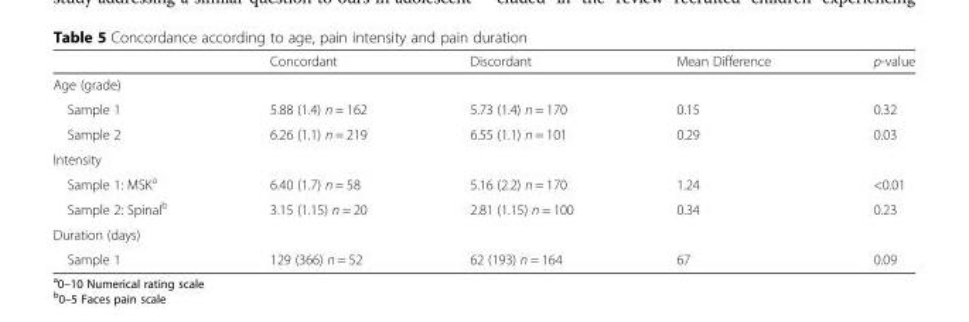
<table><thead><tr><td></td><td>Concordant</td><td>Discordant</td><td>Mean Difference</td><td>p-value</td></tr></thead><tbody><tr><td colspan="5">Age (grade)</td></tr><tr><td>Sample 1</td><td>5.88 (1.4) n = 162</td><td>5.73 (1.4) n = 170</td><td>0.15</td><td>0.32</td></tr><tr><td>Sample 2</td><td>6.26 (1.1) n = 219</td><td>6.55 (1.1) n = 101</td><td>0.29</td><td>0.03</td></tr><tr><td colspan="5">Intensity</td></tr><tr><td>Sample 1: MSK<sup>a</sup></td><td>6.40 (1.7) n = 58</td><td>5.16 (2.2) n = 170</td><td>1.24</td><td>&lt;0.01</td></tr><tr><td>Sample 2: Spinal<sup>b</sup></td><td>3.15 (1.15) n = 20</td><td>2.81 (1.15) n = 100</td><td>0.34</td><td>0.23</td></tr><tr><td colspan="5">Duration (days)</td></tr><tr><td>Sample 1</td><td>129 (366) n = 52</td><td>62 (193) n = 164</td><td>67</td><td>0.09</td></tr></tbody></table>